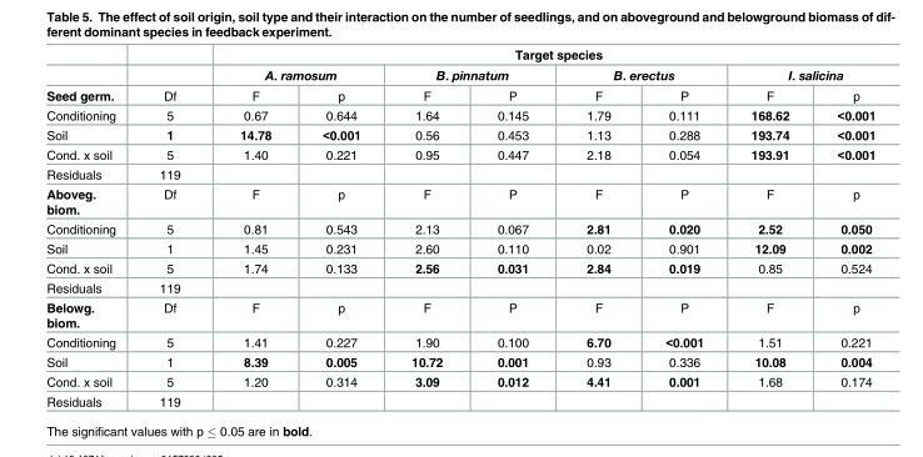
<table><thead><tr><td rowspan="3">Seed germ.</td><td rowspan="3">Df</td><td colspan="8">Target species</td></tr><tr><td colspan="2">A. ramosum</td><td colspan="2">B. pinnatum</td><td colspan="2">B. erectus</td><td colspan="2">I. salicina</td></tr><tr><td>F</td><td>p</td><td>F</td><td>P</td><td>F</td><td>P</td><td>F</td><td>p</td></tr></thead><tbody><tr><td>Conditioning</td><td>5</td><td>0.67</td><td>0.644</td><td>1.64</td><td>0.145</td><td>1.79</td><td>0.111</td><td>168.62</td><td>&lt;0.001</td></tr><tr><td>Soil</td><td>1</td><td>14.78</td><td>&lt;0.001</td><td>0.56</td><td>0.453</td><td>1.13</td><td>0.288</td><td>193.74</td><td>&lt;0.001</td></tr><tr><td>Cond. x soil</td><td>5</td><td>1.40</td><td>0.221</td><td>0.95</td><td>0.447</td><td>2.18</td><td>0.054</td><td>193.91</td><td>&lt;0.001</td></tr><tr><td>Residuals</td><td>119</td><td></td><td></td><td></td><td></td><td></td><td></td><td></td><td></td></tr><tr><td>Aboveg. biom.</td><td>Df</td><td>F</td><td>p</td><td>F</td><td>P</td><td>F</td><td>P</td><td>F</td><td>p</td></tr><tr><td>Conditioning</td><td>5</td><td>0.81</td><td>0.543</td><td>2.13</td><td>0.067</td><td>2.81</td><td>0.020</td><td>2.52</td><td>0.050</td></tr><tr><td>Soil</td><td>1</td><td>1.45</td><td>0.231</td><td>2.60</td><td>0.110</td><td>0.02</td><td>0.901</td><td>12.09</td><td>0.002</td></tr><tr><td>Cond. x soil</td><td>5</td><td>1.74</td><td>0.133</td><td>2.56</td><td>0.031</td><td>2.84</td><td>0.019</td><td>0.85</td><td>0.524</td></tr><tr><td>Residuals</td><td>119</td><td></td><td></td><td></td><td></td><td></td><td></td><td></td><td></td></tr><tr><td>Belowg. biom.</td><td>Df</td><td>F</td><td>p</td><td>F</td><td>P</td><td>F</td><td>P</td><td>F</td><td>p</td></tr><tr><td>Conditioning</td><td>5</td><td>1.41</td><td>0.227</td><td>1.90</td><td>0.100</td><td>6.70</td><td>&lt;0.001</td><td>1.51</td><td>0.221</td></tr><tr><td>Soil</td><td>1</td><td>8.39</td><td>0.005</td><td>10.72</td><td>0.001</td><td>0.93</td><td>0.336</td><td>10.08</td><td>0.004</td></tr><tr><td>Cond. x soil</td><td>5</td><td>1.20</td><td>0.314</td><td>3.09</td><td>0.012</td><td>4.41</td><td>0.001</td><td>1.68</td><td>0.174</td></tr><tr><td>Residuals</td><td>119</td><td></td><td></td><td></td><td></td><td></td><td></td><td></td><td></td></tr></tbody></table>